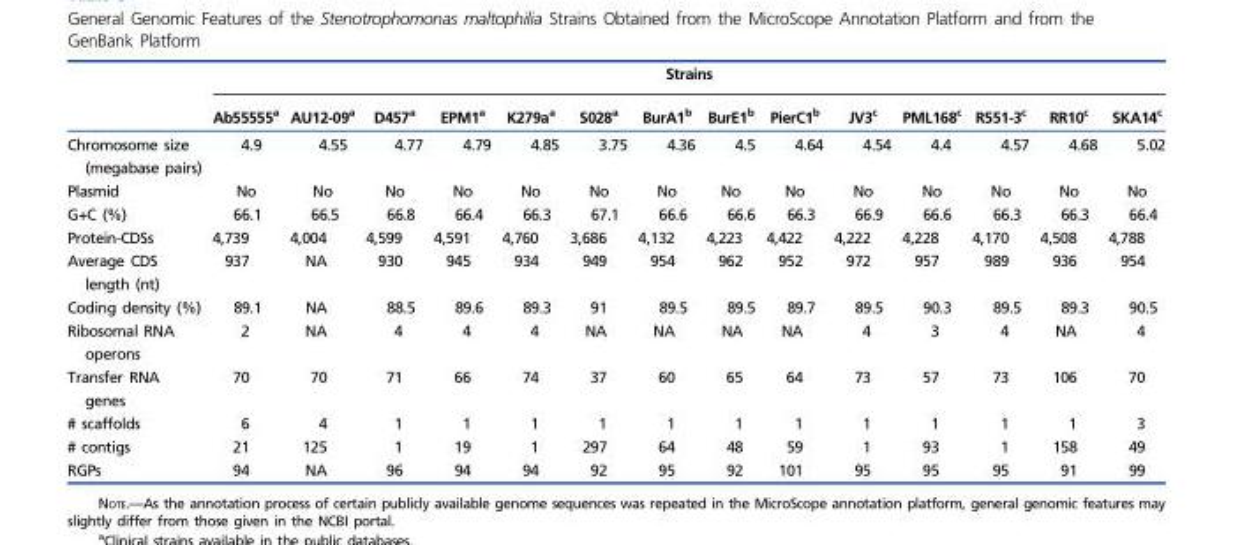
<table><thead><tr><td rowspan="2"></td><td colspan="14">Strains</td></tr><tr><td>Ab55555<sup>a</sup></td><td>AU12-09<sup>a</sup></td><td>D457<sup>a</sup></td><td>EPM1<sup>a</sup></td><td>K279a<sup>a</sup></td><td>S028<sup>a</sup></td><td>BurA1<sup>b</sup></td><td>BurE1<sup>b</sup></td><td>PierC1<sup>b</sup></td><td>JV3<sup>c</sup></td><td>PML168<sup>c</sup></td><td>R551-3<sup>c</sup></td><td>RR10<sup>c</sup></td><td>SKA14<sup>c</sup></td></tr></thead><tbody><tr><td>Chromosome size (megabase pairs)</td><td>4.9</td><td>4.55</td><td>4.77</td><td>4.79</td><td>4.85</td><td>3.75</td><td>4.36</td><td>4.5</td><td>4.64</td><td>4.54</td><td>4.4</td><td>4.57</td><td>4.68</td><td>5.02</td></tr><tr><td>Plasmid</td><td>No</td><td>No</td><td>No</td><td>No</td><td>No</td><td>No</td><td>No</td><td>No</td><td>No</td><td>No</td><td>No</td><td>No</td><td>No</td><td>No</td></tr><tr><td>G+C (%)</td><td>66.1</td><td>66.5</td><td>66.8</td><td>66.4</td><td>66.3</td><td>67.1</td><td>66.6</td><td>66.6</td><td>66.3</td><td>66.9</td><td>66.6</td><td>66.3</td><td>66.3</td><td>66.4</td></tr><tr><td>Protein-CDSs</td><td>4,739</td><td>4,004</td><td>4,599</td><td>4,591</td><td>4,760</td><td>3,686</td><td>4,132</td><td>4,223</td><td>4,422</td><td>4,222</td><td>4,228</td><td>4,170</td><td>4,508</td><td>4,788</td></tr><tr><td>Average CDS length (nt)</td><td>937</td><td>NA</td><td>930</td><td>945</td><td>934</td><td>949</td><td>954</td><td>962</td><td>952</td><td>972</td><td>957</td><td>989</td><td>936</td><td>954</td></tr><tr><td>Coding density (%)</td><td>89.1</td><td>NA</td><td>88.5</td><td>89.6</td><td>89.3</td><td>91</td><td>89.5</td><td>89.5</td><td>89.7</td><td>89.5</td><td>90.3</td><td>89.5</td><td>89.3</td><td>90.5</td></tr><tr><td>Ribosomal RNA operons</td><td>2</td><td>NA</td><td>4</td><td>4</td><td>4</td><td>NA</td><td>NA</td><td>NA</td><td>NA</td><td>4</td><td>3</td><td>4</td><td>NA</td><td>4</td></tr><tr><td>Transfer RNA genes</td><td>70</td><td>70</td><td>71</td><td>66</td><td>74</td><td>37</td><td>60</td><td>65</td><td>64</td><td>73</td><td>57</td><td>73</td><td>106</td><td>70</td></tr><tr><td># scaffolds</td><td>6</td><td>4</td><td>1</td><td>1</td><td>1</td><td>1</td><td>1</td><td>1</td><td>1</td><td>1</td><td>1</td><td>1</td><td>1</td><td>3</td></tr><tr><td># contigs</td><td>21</td><td>125</td><td>1</td><td>19</td><td>1</td><td>297</td><td>64</td><td>48</td><td>59</td><td>1</td><td>93</td><td>1</td><td>158</td><td>49</td></tr><tr><td>RGPs</td><td>94</td><td>NA</td><td>96</td><td>94</td><td>94</td><td>92</td><td>95</td><td>92</td><td>101</td><td>95</td><td>95</td><td>95</td><td>91</td><td>99</td></tr></tbody></table>